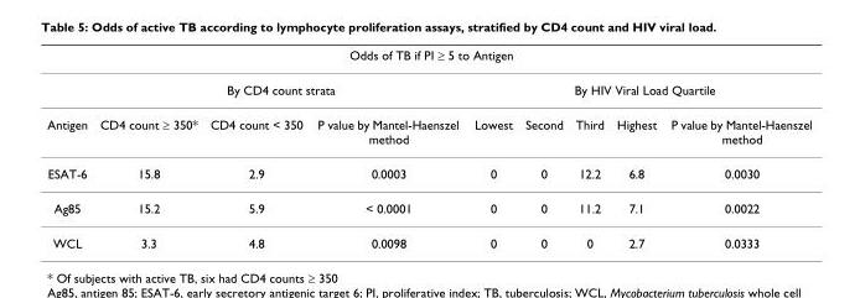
<table><thead><tr><td colspan="9">Odds of TB if PI ≥ 5 to Antigen</td></tr><tr><td rowspan="2">Antigen</td><td colspan="3">By CD4 count strata</td><td colspan="5">By HIV Viral Load Quartile</td></tr><tr><td>CD4 count ≥ 350*</td><td>CD4 count &lt; 350</td><td>P value by Mantel-Haenszel method</td><td>Lowest</td><td>Second</td><td>Third</td><td>Highest</td><td>P value by Mantel-Haenszel method</td></tr></thead><tbody><tr><td>ESAT-6</td><td>15.8</td><td>2.9</td><td>0.0003</td><td>0</td><td>0</td><td>12.2</td><td>6.8</td><td>0.0030</td></tr><tr><td>Ag85</td><td>15.2</td><td>5.9</td><td>&lt; 0.0001</td><td>0</td><td>0</td><td>11.2</td><td>7.1</td><td>0.0022</td></tr><tr><td>WCL</td><td>3.3</td><td>4.8</td><td>0.0098</td><td>0</td><td>0</td><td>0</td><td>2.7</td><td>0.0333</td></tr></tbody></table>